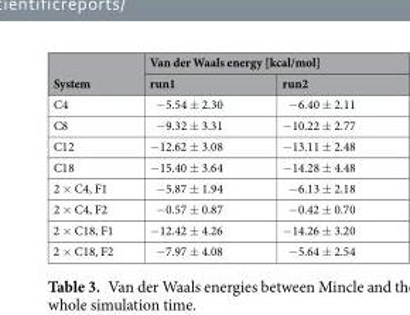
<table><thead><tr><td rowspan="2">System</td><td colspan="2">Van der Waals energy [kcal/mol]</td></tr><tr><td>run1</td><td>run2</td></tr></thead><tbody><tr><td>C4</td><td>−5.54 ± 2.30</td><td>−6.40 ± 2.11</td></tr><tr><td>C8</td><td>−9.32 ± 3.31</td><td>−10.22 ± 2.77</td></tr><tr><td>C12</td><td>−12.62 ± 3.08</td><td>−13.11 ± 2.48</td></tr><tr><td>C18</td><td>−15.40 ± 3.64</td><td>−14.28 ± 4.48</td></tr><tr><td>2 × C4, F1</td><td>−5.87 ± 1.94</td><td>−6.13 ± 2.18</td></tr><tr><td>2 × C4, F2</td><td>−0.57 ± 0.87</td><td>−0.42 ± 0.70</td></tr><tr><td>2 × C18, F1</td><td>−12.42 ± 4.26</td><td>−14.26 ± 3.20</td></tr><tr><td>2 × C18, F2</td><td>−7.97 ± 4.08</td><td>−5.64 ± 2.54</td></tr></tbody></table>